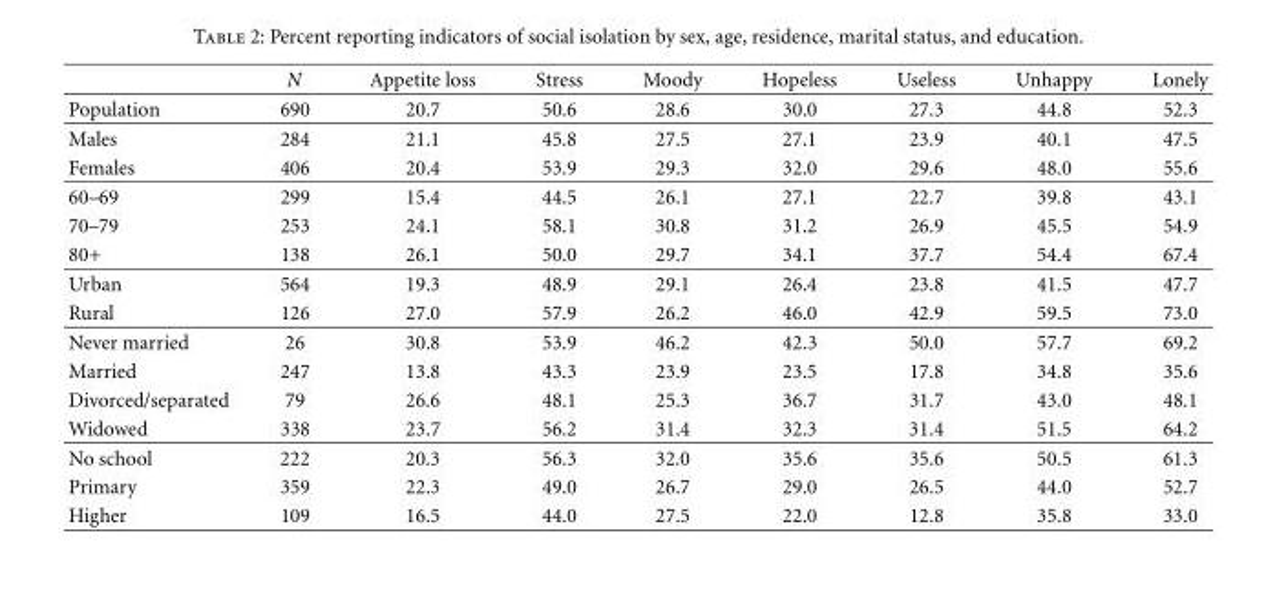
<table><thead><tr><td></td><td>N</td><td>Appetite loss</td><td>Stress</td><td>Moody</td><td>Hopeless</td><td>Useless</td><td>Unhappy</td><td>Lonely</td></tr></thead><tbody><tr><td>Population</td><td>690</td><td>20.7</td><td>50.6</td><td>28.6</td><td>30.0</td><td>27.3</td><td>44.8</td><td>52.3</td></tr><tr><td>Males</td><td>284</td><td>21.1</td><td>45.8</td><td>27.5</td><td>27.1</td><td>23.9</td><td>40.1</td><td>47.5</td></tr><tr><td>Females</td><td>406</td><td>20.4</td><td>53.9</td><td>29.3</td><td>32.0</td><td>29.6</td><td>48.0</td><td>55.6</td></tr><tr><td>60–69</td><td>299</td><td>15.4</td><td>44.5</td><td>26.1</td><td>27.1</td><td>22.7</td><td>39.8</td><td>43.1</td></tr><tr><td>70–79</td><td>253</td><td>24.1</td><td>58.1</td><td>30.8</td><td>31.2</td><td>26.9</td><td>45.5</td><td>54.9</td></tr><tr><td>80+</td><td>138</td><td>26.1</td><td>50.0</td><td>29.7</td><td>34.1</td><td>37.7</td><td>54.4</td><td>67.4</td></tr><tr><td>Urban</td><td>564</td><td>19.3</td><td>48.9</td><td>29.1</td><td>26.4</td><td>23.8</td><td>41.5</td><td>47.7</td></tr><tr><td>Rural</td><td>126</td><td>27.0</td><td>57.9</td><td>26.2</td><td>46.0</td><td>42.9</td><td>59.5</td><td>73.0</td></tr><tr><td>Never married</td><td>26</td><td>30.8</td><td>53.9</td><td>46.2</td><td>42.3</td><td>50.0</td><td>57.7</td><td>69.2</td></tr><tr><td>Married</td><td>247</td><td>13.8</td><td>43.3</td><td>23.9</td><td>23.5</td><td>17.8</td><td>34.8</td><td>35.6</td></tr><tr><td>Divorced/separated</td><td>79</td><td>26.6</td><td>48.1</td><td>25.3</td><td>36.7</td><td>31.7</td><td>43.0</td><td>48.1</td></tr><tr><td>Widowed</td><td>338</td><td>23.7</td><td>56.2</td><td>31.4</td><td>32.3</td><td>31.4</td><td>51.5</td><td>64.2</td></tr><tr><td>No school</td><td>222</td><td>20.3</td><td>56.3</td><td>32.0</td><td>35.6</td><td>35.6</td><td>50.5</td><td>61.3</td></tr><tr><td>Primary</td><td>359</td><td>22.3</td><td>49.0</td><td>26.7</td><td>29.0</td><td>26.5</td><td>44.0</td><td>52.7</td></tr><tr><td>Higher</td><td>109</td><td>16.5</td><td>44.0</td><td>27.5</td><td>22.0</td><td>12.8</td><td>35.8</td><td>33.0</td></tr></tbody></table>